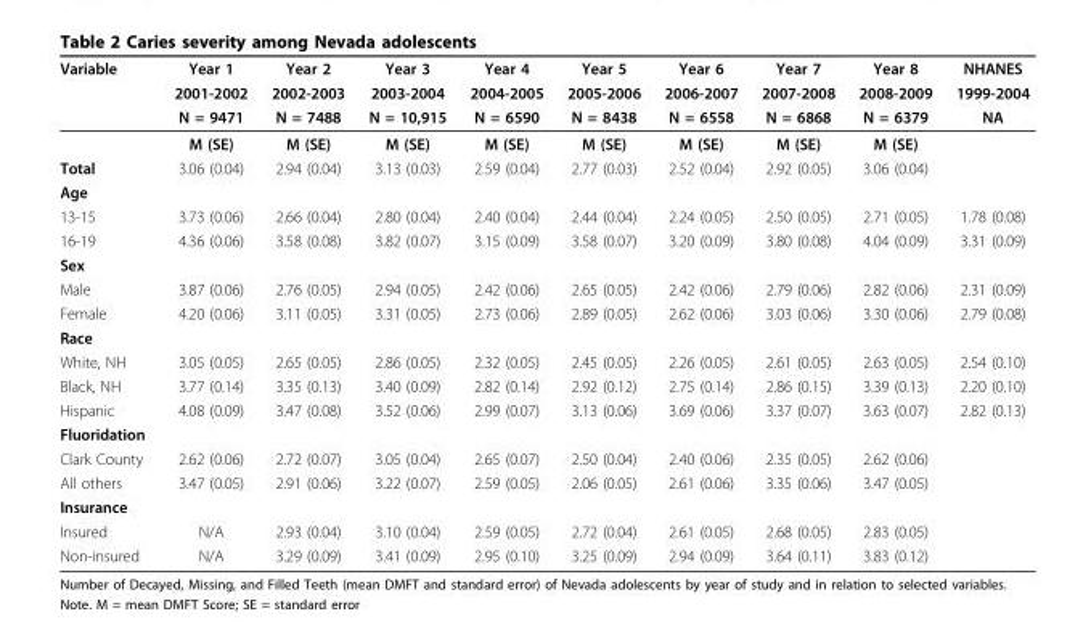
<table><thead><tr><td rowspan="3">Variable</td><td rowspan="3">Year 1 2001-2002 N = 9471</td><td rowspan="3">Year 2 2002-2003 N = 7488</td><td rowspan="3">Year 3 2003-2004 N = 10,915</td><td rowspan="3">Year 4 2004-2005 N = 6590</td><td rowspan="3">Year 5 2005-2006 N = 8438</td><td rowspan="3">Year 6 2006-2007 N = 6558</td><td rowspan="3">Year 7 2007-2008 N = 6868</td><td rowspan="3">Year 8 2008-2009 N = 6379</td><td rowspan="3">NHANES 1999-2004 NA</td></tr><tr></tr><tr></tr></thead><tbody><tr><td></td><td>M (SE)</td><td>M (SE)</td><td>M (SE)</td><td>M (SE)</td><td>M (SE)</td><td>M (SE)</td><td>M (SE)</td><td>M (SE)</td><td></td></tr><tr><td>Total</td><td>3.06 (0.04)</td><td>2.94 (0.04)</td><td>3.13 (0.03)</td><td>2.59 (0.04)</td><td>2.77 (0.03)</td><td>2.52 (0.04)</td><td>2.92 (0.05)</td><td>3.06 (0.04)</td><td></td></tr><tr><td colspan="10">Age</td></tr><tr><td>13-15</td><td>3.73 (0.06)</td><td>2.66 (0.04)</td><td>2.80 (0.04)</td><td>2.40 (0.04)</td><td>2.44 (0.04)</td><td>2.24 (0.05)</td><td>2.50 (0.05)</td><td>2.71 (0.05)</td><td>1.78 (0.08)</td></tr><tr><td>16-19</td><td>4.36 (0.06)</td><td>3.58 (0.08)</td><td>3.82 (0.07)</td><td>3.15 (0.09)</td><td>3.58 (0.07)</td><td>3.20 (0.09)</td><td>3.80 (0.08)</td><td>4.04 (0.09)</td><td>3.31 (0.09)</td></tr><tr><td colspan="10">Sex</td></tr><tr><td>Male</td><td>3.87 (0.06)</td><td>2.76 (0.05)</td><td>2.94 (0.05)</td><td>2.42 (0.06)</td><td>2.65 (0.05)</td><td>2.42 (0.06)</td><td>2.79 (0.06)</td><td>2.82 (0.06)</td><td>2.31 (0.09)</td></tr><tr><td>Female</td><td>4.20 (0.06)</td><td>3.11 (0.05)</td><td>3.31 (0.05)</td><td>2.73 (0.06)</td><td>2.89 (0.05)</td><td>2.62 (0.06)</td><td>3.03 (0.06)</td><td>3.30 (0.06)</td><td>2.79 (0.08)</td></tr><tr><td colspan="10">Race</td></tr><tr><td>White, NH</td><td>3.05 (0.05)</td><td>2.65 (0.05)</td><td>2.86 (0.05)</td><td>2.32 (0.05)</td><td>2.45 (0.05)</td><td>2.26 (0.05)</td><td>2.61 (0.05)</td><td>2.63 (0.05)</td><td>2.54 (0.10)</td></tr><tr><td>Black, NH</td><td>3.77 (0.14)</td><td>3.35 (0.13)</td><td>3.40 (0.09)</td><td>2.82 (0.14)</td><td>2.92 (0.12)</td><td>2.75 (0.14)</td><td>2.86 (0.15)</td><td>3.39 (0.13)</td><td>2.20 (0.10)</td></tr><tr><td>Hispanic</td><td>4.08 (0.09)</td><td>3.47 (0.08)</td><td>3.52 (0.06)</td><td>2.99 (0.07)</td><td>3.13 (0.06)</td><td>3.69 (0.06)</td><td>3.37 (0.07)</td><td>3.63 (0.07)</td><td>2.82 (0.13)</td></tr><tr><td colspan="10">Fluoridation</td></tr><tr><td>Clark County</td><td>2.62 (0.06)</td><td>2.72 (0.07)</td><td>3.05 (0.04)</td><td>2.65 (0.07)</td><td>2.50 (0.04)</td><td>2.40 (0.06)</td><td>2.35 (0.05)</td><td>2.62 (0.06)</td><td></td></tr><tr><td>All others</td><td>3.47 (0.05)</td><td>2.91 (0.06)</td><td>3.22 (0.07)</td><td>2.59 (0.05)</td><td>2.06 (0.05)</td><td>2.61 (0.06)</td><td>3.35 (0.06)</td><td>3.47 (0.05)</td><td></td></tr><tr><td colspan="10">Insurance</td></tr><tr><td>Insured</td><td>N/A</td><td>2.93 (0.04)</td><td>3.10 (0.04)</td><td>2.59 (0.05)</td><td>2.72 (0.04)</td><td>2.61 (0.05)</td><td>2.68 (0.05)</td><td>2.83 (0.05)</td><td></td></tr><tr><td>Non-insured</td><td>N/A</td><td>3.29 (0.09)</td><td>3.41 (0.09)</td><td>2.95 (0.10)</td><td>3.25 (0.09)</td><td>2.94 (0.09)</td><td>3.64 (0.11)</td><td>3.83 (0.12)</td><td></td></tr></tbody></table>